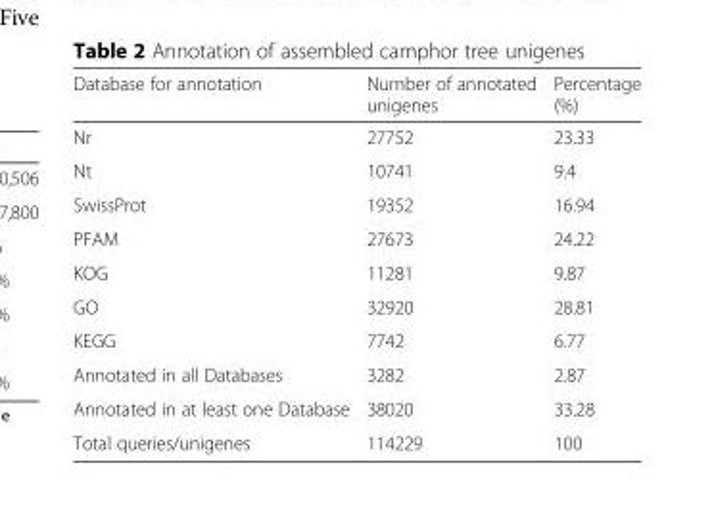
<table><thead><tr><td>Database for annotation</td><td>Number of annotated unigenes</td><td>Percentage (%)</td></tr></thead><tbody><tr><td>Nr</td><td>27752</td><td>23.33</td></tr><tr><td>Nt</td><td>10741</td><td>9.4</td></tr><tr><td>SwissProt</td><td>19352</td><td>16.94</td></tr><tr><td>PFAM</td><td>27673</td><td>24.22</td></tr><tr><td>KOG</td><td>11281</td><td>9.87</td></tr><tr><td>GO</td><td>32920</td><td>28.81</td></tr><tr><td>KEGG</td><td>7742</td><td>6.77</td></tr><tr><td>Annotated in all Databases</td><td>3282</td><td>2.87</td></tr><tr><td>Annotated in at least one Database</td><td>38020</td><td>33.28</td></tr><tr><td>Total queries/unigenes</td><td>114229</td><td>100</td></tr></tbody></table>